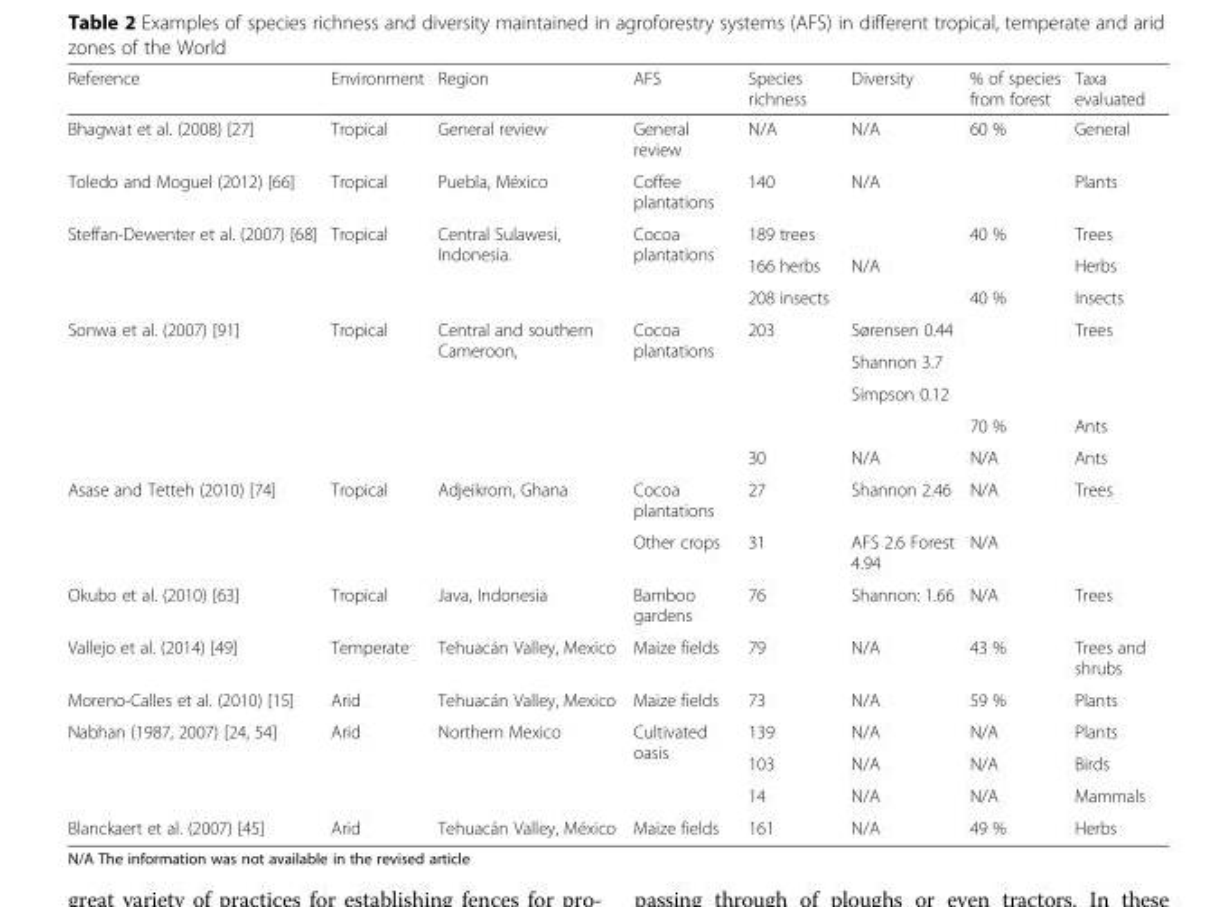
<table><thead><tr><td>Reference</td><td>Environment</td><td>Region</td><td>AFS</td><td>Species richness</td><td>Diversity</td><td>% of species from forest</td><td>Taxa evaluated</td></tr></thead><tbody><tr><td>Bhagwat et al. (2008) [27]</td><td>Tropical</td><td>General review</td><td>General review</td><td>N/A</td><td>N/A</td><td>60 %</td><td>General</td></tr><tr><td>Toledo and Moguel (2012) [66]</td><td>Tropical</td><td>Puebla, México</td><td>Coffee plantations</td><td>140</td><td>N/A</td><td></td><td>Plants</td></tr><tr><td rowspan="3">Steffan-Dewenter et al. (2007) [68]</td><td rowspan="3">Tropical</td><td rowspan="3">Central Sulawesi, Indonesia.</td><td rowspan="3">Cocoa plantations</td><td>189 trees</td><td></td><td rowspan="2">40 %</td><td>Trees</td></tr><tr><td>166 herbs</td><td>N/A</td><td>Herbs</td></tr><tr><td>208 insects</td><td></td><td>40 %</td><td>Insects</td></tr><tr><td rowspan="5">Sonwa et al. (2007) [91]</td><td rowspan="5">Tropical</td><td rowspan="5">Central and southern Cameroon,</td><td rowspan="5">Cocoa plantations</td><td rowspan="3">203</td><td>Sørensen 0.44</td><td></td><td rowspan="3">Trees</td></tr><tr><td>Shannon 3.7</td><td></td></tr><tr><td>Simpson 0.12</td><td></td></tr><tr><td></td><td></td><td>70 %</td><td>Ants</td></tr><tr><td>30</td><td>N/A</td><td>N/A</td><td>Ants</td></tr><tr><td rowspan="2">Asase and Tetteh (2010) [74]</td><td rowspan="2">Tropical</td><td rowspan="2">Adjeikrom, Ghana</td><td>Cocoa plantations</td><td>27</td><td>Shannon 2.46</td><td>N/A</td><td rowspan="2">Trees</td></tr><tr><td>Other crops</td><td>31</td><td>AFS 2.6 Forest 4.94</td><td>N/A</td></tr><tr><td>Okubo et al. (2010) [63]</td><td>Tropical</td><td>Java, Indonesia</td><td>Bamboo gardens</td><td>76</td><td>Shannon: 1.66</td><td>N/A</td><td>Trees</td></tr><tr><td>Vallejo et al. (2014) [49]</td><td>Temperate</td><td>Tehuacán Valley, Mexico</td><td>Maize fields</td><td>79</td><td>N/A</td><td>43 %</td><td>Trees and shrubs</td></tr><tr><td>Moreno-Calles et al. (2010) [15]</td><td>Arid</td><td>Tehuacán Valley, Mexico</td><td>Maize fields</td><td>73</td><td>N/A</td><td>59 %</td><td>Plants</td></tr><tr><td rowspan="3">Nabhan (1987, 2007) [24, 54]</td><td rowspan="3">Arid</td><td rowspan="3">Northern Mexico</td><td rowspan="3">Cultivated oasis</td><td>139</td><td>N/A</td><td>N/A</td><td>Plants</td></tr><tr><td>103</td><td>N/A</td><td>N/A</td><td>Birds</td></tr><tr><td>14</td><td>N/A</td><td>N/A</td><td>Mammals</td></tr><tr><td>Blanckaert et al. (2007) [45]</td><td>Arid</td><td>Tehuacán Valley, México</td><td>Maize fields</td><td>161</td><td>N/A</td><td>49 %</td><td>Herbs</td></tr></tbody></table>